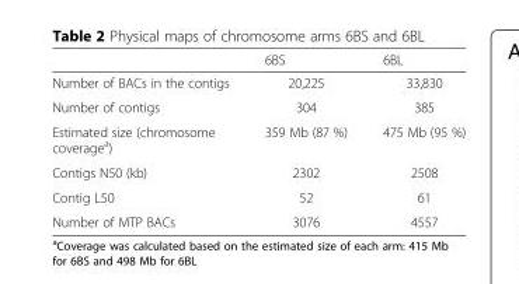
<table><thead><tr><td></td><td>6BS</td><td>6BL</td></tr></thead><tbody><tr><td>Number of BACs in the contigs</td><td>20,225</td><td>33,830</td></tr><tr><td>Number of contigs</td><td>304</td><td>385</td></tr><tr><td>Estimated size (chromosome coverage<sup>a</sup>)</td><td>359 Mb (87 %)</td><td>475 Mb (95 %)</td></tr><tr><td>Contigs N50 (kb)</td><td>2302</td><td>2508</td></tr><tr><td>Contig L50</td><td>52</td><td>61</td></tr><tr><td>Number of MTP BACs</td><td>3076</td><td>4557</td></tr></tbody></table>